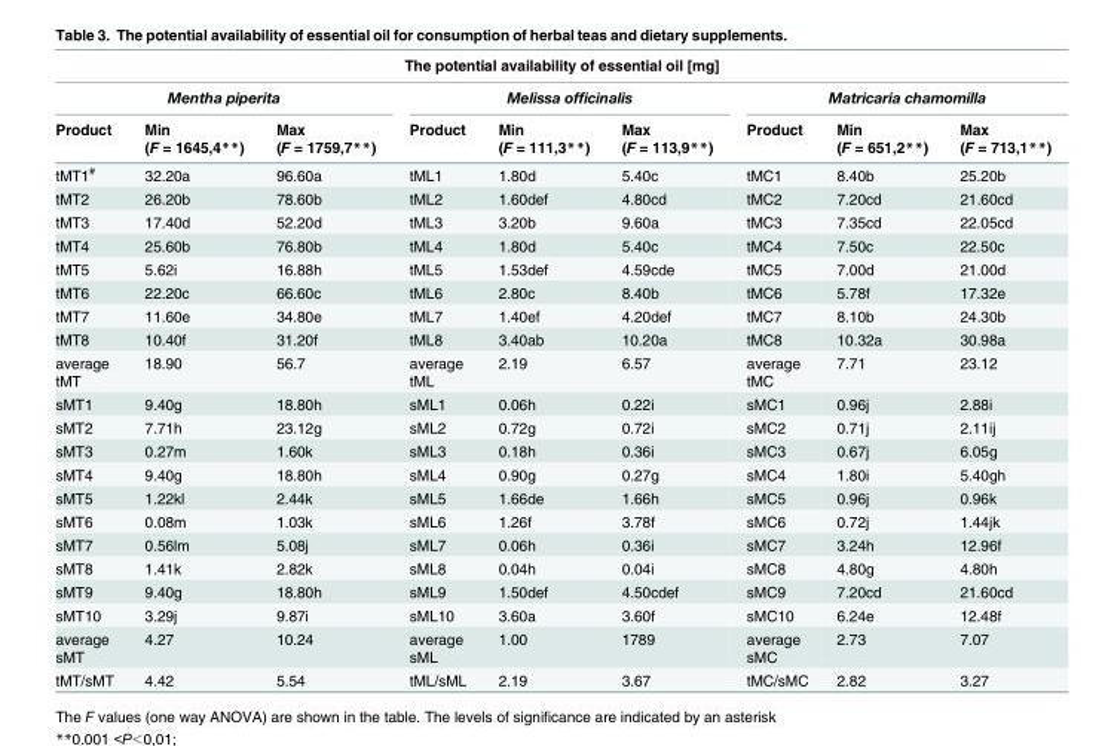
<table><thead><tr><td colspan="9">The potential availability of essential oil [mg]</td></tr><tr><td colspan="3">Mentha piperita</td><td colspan="3">Melissa officinalis</td><td colspan="3">Matricaria chamomilla</td></tr><tr><td>Product</td><td>Min (F = 1645,4**)</td><td>Max (F = 1759,7**)</td><td>Product</td><td>Min (F = 111,3**)</td><td>Max (F = 113,9**)</td><td>Product</td><td>Min (F = 651,2**)</td><td>Max (F = 713,1**)</td></tr></thead><tbody><tr><td>tMT1<sup>#</sup></td><td>32.20a</td><td>96.60a</td><td>tML1</td><td>1.80d</td><td>5.40c</td><td>tMC1</td><td>8.40b</td><td>25.20b</td></tr><tr><td>tMT2</td><td>26.20b</td><td>78.60b</td><td>tML2</td><td>1.60def</td><td>4.80cd</td><td>tMC2</td><td>7.20cd</td><td>21.60cd</td></tr><tr><td>tMT3</td><td>17.40d</td><td>52.20d</td><td>tML3</td><td>3.20b</td><td>9.60a</td><td>tMC3</td><td>7.35cd</td><td>22.05cd</td></tr><tr><td>tMT4</td><td>25.60b</td><td>76.80b</td><td>tML4</td><td>1.80d</td><td>5.40c</td><td>tMC4</td><td>7.50c</td><td>22.50c</td></tr><tr><td>tMT5</td><td>5.62i</td><td>16.88h</td><td>tML5</td><td>1.53def</td><td>4.59cde</td><td>tMC5</td><td>7.00d</td><td>21.00d</td></tr><tr><td>tMT6</td><td>22.20c</td><td>66.60c</td><td>tML6</td><td>2.80c</td><td>8.40b</td><td>tMC6</td><td>5.78f</td><td>17.32e</td></tr><tr><td>tMT7</td><td>11.60e</td><td>34.80e</td><td>tML7</td><td>1.40ef</td><td>4.20def</td><td>tMC7</td><td>8.10b</td><td>24.30b</td></tr><tr><td>tMT8</td><td>10.40f</td><td>31.20f</td><td>tML8</td><td>3.40ab</td><td>10.20a</td><td>tMC8</td><td>10.32a</td><td>30.98a</td></tr><tr><td>average tMT</td><td>18.90</td><td>56.7</td><td>average tML</td><td>2.19</td><td>6.57</td><td>average tMC</td><td>7.71</td><td>23.12</td></tr><tr><td>sMT1</td><td>9.40g</td><td>18.80h</td><td>sML1</td><td>0.06h</td><td>0.22i</td><td>sMC1</td><td>0.96j</td><td>2.88i</td></tr><tr><td>sMT2</td><td>7.71h</td><td>23.12g</td><td>sML2</td><td>0.72g</td><td>0.72i</td><td>sMC2</td><td>0.71j</td><td>2.11ij</td></tr><tr><td>sMT3</td><td>0.27m</td><td>1.60k</td><td>sML3</td><td>0.18h</td><td>0.36i</td><td>sMC3</td><td>0.67j</td><td>6.05g</td></tr><tr><td>sMT4</td><td>9.40g</td><td>18.80h</td><td>sML4</td><td>0.90g</td><td>0.27g</td><td>sMC4</td><td>1.80i</td><td>5.40gh</td></tr><tr><td>sMT5</td><td>1.22kl</td><td>2.44k</td><td>sML5</td><td>1.66de</td><td>1.66h</td><td>sMC5</td><td>0.96j</td><td>0.96k</td></tr><tr><td>sMT6</td><td>0.08m</td><td>1.03k</td><td>sML6</td><td>1.26f</td><td>3.78f</td><td>sMC6</td><td>0.72j</td><td>1.44jk</td></tr><tr><td>sMT7</td><td>0.56lm</td><td>5.08j</td><td>sML7</td><td>0.06h</td><td>0.36i</td><td>sMC7</td><td>3.24h</td><td>12.96f</td></tr><tr><td>sMT8</td><td>1.41k</td><td>2.82k</td><td>sML8</td><td>0.04h</td><td>0.04i</td><td>sMC8</td><td>4.80g</td><td>4.80h</td></tr><tr><td>sMT9</td><td>9.40g</td><td>18.80h</td><td>sML9</td><td>1.50def</td><td>4.50cdef</td><td>sMC9</td><td>7.20cd</td><td>21.60cd</td></tr><tr><td>sMT10</td><td>3.29j</td><td>9.87i</td><td>sML10</td><td>3.60a</td><td>3.60f</td><td>sMC10</td><td>6.24e</td><td>12.48f</td></tr><tr><td>average sMT</td><td>4.27</td><td>10.24</td><td>average sML</td><td>1.00</td><td>1789</td><td>average sMC</td><td>2.73</td><td>7.07</td></tr><tr><td>tMT/sMT</td><td>4.42</td><td>5.54</td><td>tML/sML</td><td>2.19</td><td>3.67</td><td>tMC/sMC</td><td>2.82</td><td>3.27</td></tr></tbody></table>